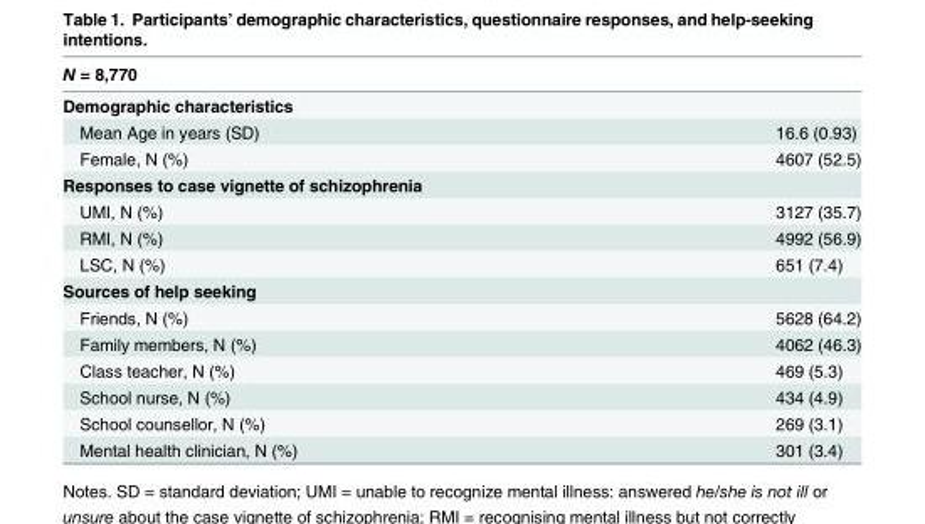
<table><thead><tr><td rowspan="2" colspan="2">N = 8,770 Demographic characteristics</td></tr><tr></tr><tr><td>Mean Age in years (SD)</td><td>16.6 (0.93)</td></tr></thead><tbody><tr><td>Female, N (%)</td><td>4607 (52.5)</td></tr><tr><td colspan="2">Responses to case vignette of schizophrenia</td></tr><tr><td>UMI, N (%)</td><td>3127 (35.7)</td></tr><tr><td>RMI, N (%)</td><td>4992 (56.9)</td></tr><tr><td>LSC, N (%)</td><td>651 (7.4)</td></tr><tr><td colspan="2">Sources of help seeking</td></tr><tr><td>Friends, N (%)</td><td>5628 (64.2)</td></tr><tr><td>Family members, N (%)</td><td>4062 (46.3)</td></tr><tr><td>Class teacher, N (%)</td><td>469 (5.3)</td></tr><tr><td>School nurse, N (%)</td><td>434 (4.9)</td></tr><tr><td>School counsellor, N (%)</td><td>269 (3.1)</td></tr><tr><td>Mental health clinician, N (%)</td><td>301 (3.4)</td></tr></tbody></table>